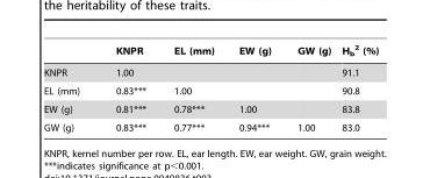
<table><thead><tr><td></td><td>KNPR</td><td>EL (mm)</td><td>EW (g)</td><td>GW (g)</td><td>H<sub>b</sub> <sup>2</sup> (%)</td></tr></thead><tbody><tr><td>KNPR</td><td>1.00</td><td></td><td></td><td></td><td>91.1</td></tr><tr><td>EL (mm)</td><td>0.83***</td><td>1.00</td><td></td><td></td><td>90.8</td></tr><tr><td>EW (g)</td><td>0.81***</td><td>0.78***</td><td>1.00</td><td></td><td>83.8</td></tr><tr><td>GW (g)</td><td>0.83***</td><td>0.77***</td><td>0.94***</td><td>1.00</td><td>83.0</td></tr></tbody></table>